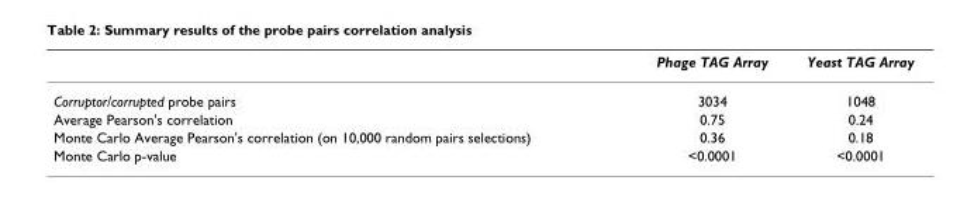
<table><thead><tr><td></td><td>Phage TAG Array</td><td>Yeast TAG Array</td></tr></thead><tbody><tr><td>Corruptor/corrupted probe pairs</td><td>3034</td><td>1048</td></tr><tr><td>Average Pearson&#x27;s correlation</td><td>0.75</td><td>0.24</td></tr><tr><td>Monte Carlo Average Pearson&#x27;s correlation (on 10,000 random pairs selections)</td><td>0.36</td><td>0.18</td></tr><tr><td>Monte Carlo p-value</td><td>&lt;0.0001</td><td>&lt;0.0001</td></tr></tbody></table>